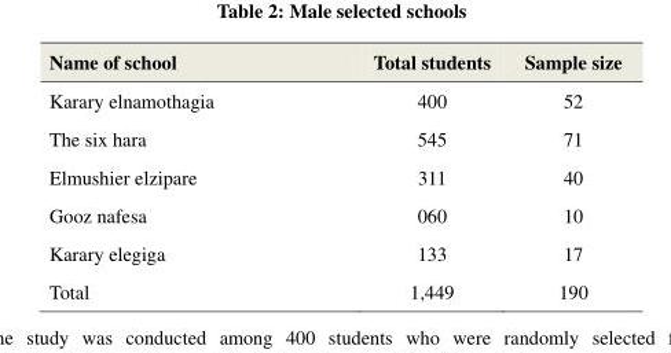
<table><thead><tr><td>Name of school</td><td>Total students</td><td>Sample size</td></tr></thead><tbody><tr><td>Karary elnamothagia</td><td>400</td><td>52</td></tr><tr><td>The six hara</td><td>545</td><td>71</td></tr><tr><td>Elmushier elzipare</td><td>311</td><td>40</td></tr><tr><td>Gooz nafesa</td><td>060</td><td>10</td></tr><tr><td>Karary elegiga</td><td>133</td><td>17</td></tr><tr><td>Total</td><td>1,449</td><td>190</td></tr></tbody></table>